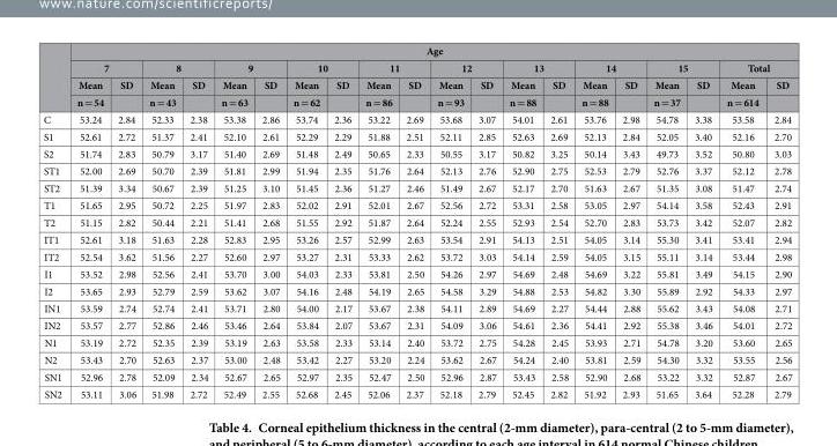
<table><thead><tr><td rowspan="4"></td><td colspan="20">Age</td></tr><tr><td colspan="2">7</td><td colspan="2">8</td><td colspan="2">9</td><td colspan="2">10</td><td colspan="2">11</td><td colspan="2">12</td><td colspan="2">13</td><td colspan="2">14</td><td colspan="2">15</td><td colspan="2">Total</td></tr><tr><td rowspan="2">Mean n = 54</td><td rowspan="2">SD</td><td rowspan="2">Mean n = 43</td><td rowspan="2">SD</td><td rowspan="2">Mean n = 63</td><td rowspan="2">SD</td><td rowspan="2">Mean n = 62</td><td rowspan="2">SD</td><td rowspan="2">Mean n = 86</td><td rowspan="2">SD</td><td rowspan="2">Mean n = 93</td><td rowspan="2">SD</td><td rowspan="2">Mean n = 88</td><td rowspan="2">SD</td><td rowspan="2">Mean n = 88</td><td rowspan="2">SD</td><td rowspan="2">Mean n = 37</td><td rowspan="2">SD</td><td rowspan="2">Mean n = 614</td><td rowspan="2">SD</td></tr><tr></tr></thead><tbody><tr><td>C</td><td>53.24</td><td>2.84</td><td>52.33</td><td>2.38</td><td>53.38</td><td>2.86</td><td>53.74</td><td>2.36</td><td>53.22</td><td>2.69</td><td>53.68</td><td>3.07</td><td>54.01</td><td>2.61</td><td>53.76</td><td>2.98</td><td>54.78</td><td>3.38</td><td>53.58</td><td>2.84</td></tr><tr><td>S1</td><td>52.61</td><td>2.72</td><td>51.37</td><td>2.41</td><td>52.10</td><td>2.61</td><td>52.29</td><td>2.29</td><td>51.88</td><td>2.51</td><td>52.11</td><td>2.85</td><td>52.63</td><td>2.69</td><td>52.13</td><td>2.84</td><td>52.05</td><td>3.40</td><td>52.16</td><td>2.70</td></tr><tr><td>S2</td><td>51.74</td><td>2.83</td><td>50.79</td><td>3.17</td><td>51.40</td><td>2.69</td><td>51.48</td><td>2.49</td><td>50.65</td><td>2.33</td><td>50.55</td><td>3.17</td><td>50.82</td><td>3.25</td><td>50.14</td><td>3.43</td><td>49.73</td><td>3.52</td><td>50.80</td><td>3.03</td></tr><tr><td>ST1</td><td>52.00</td><td>2.69</td><td>50.70</td><td>2.39</td><td>51.81</td><td>2.99</td><td>51.94</td><td>2.35</td><td>51.76</td><td>2.64</td><td>52.13</td><td>2.76</td><td>52.90</td><td>2.75</td><td>52.53</td><td>2.79</td><td>52.76</td><td>3.37</td><td>52.12</td><td>2.78</td></tr><tr><td>ST2</td><td>51.39</td><td>3.34</td><td>50.67</td><td>2.39</td><td>51.25</td><td>3.10</td><td>51.45</td><td>2.36</td><td>51.27</td><td>2.46</td><td>51.49</td><td>2.67</td><td>52.17</td><td>2.70</td><td>51.63</td><td>2.67</td><td>51.35</td><td>3.08</td><td>51.47</td><td>2.74</td></tr><tr><td>T1</td><td>51.65</td><td>2.95</td><td>50.72</td><td>2.25</td><td>51.97</td><td>2.83</td><td>52.02</td><td>2.91</td><td>52.01</td><td>2.67</td><td>52.56</td><td>2.72</td><td>53.31</td><td>2.58</td><td>53.05</td><td>2.97</td><td>54.14</td><td>3.58</td><td>52.43</td><td>2.91</td></tr><tr><td>T2</td><td>51.15</td><td>2.82</td><td>50.44</td><td>2.21</td><td>51.41</td><td>2.68</td><td>51.55</td><td>2.92</td><td>51.87</td><td>2.64</td><td>52.24</td><td>2.55</td><td>52.93</td><td>2.54</td><td>52.70</td><td>2.83</td><td>53.73</td><td>3.42</td><td>52.07</td><td>2.82</td></tr><tr><td>IT1</td><td>52.61</td><td>3.18</td><td>51.63</td><td>2.28</td><td>52.83</td><td>2.95</td><td>53.26</td><td>2.57</td><td>52.99</td><td>2.63</td><td>53.54</td><td>2.91</td><td>54.13</td><td>2.51</td><td>54.05</td><td>3.14</td><td>55.30</td><td>3.41</td><td>53.41</td><td>2.94</td></tr><tr><td>IT2</td><td>52.54</td><td>3.62</td><td>51.56</td><td>2.27</td><td>52.60</td><td>2.97</td><td>53.27</td><td>2.31</td><td>53.33</td><td>2.62</td><td>53.72</td><td>3.03</td><td>54.14</td><td>2.59</td><td>54.05</td><td>3.15</td><td>55.11</td><td>3.14</td><td>53.44</td><td>2.98</td></tr><tr><td>I1</td><td>53.52</td><td>2.98</td><td>52.56</td><td>2.41</td><td>53.70</td><td>3.00</td><td>54.03</td><td>2.33</td><td>53.81</td><td>2.50</td><td>54.26</td><td>2.97</td><td>54.69</td><td>2.48</td><td>54.69</td><td>3.22</td><td>55.81</td><td>3.49</td><td>54.15</td><td>2.90</td></tr><tr><td>I2</td><td>53.65</td><td>2.93</td><td>52.79</td><td>2.59</td><td>53.62</td><td>3.07</td><td>54.16</td><td>2.48</td><td>54.19</td><td>2.65</td><td>54.58</td><td>3.29</td><td>54.88</td><td>2.53</td><td>54.82</td><td>3.30</td><td>55.89</td><td>2.92</td><td>54.33</td><td>2.97</td></tr><tr><td>IN1</td><td>53.59</td><td>2.74</td><td>52.74</td><td>2.41</td><td>53.71</td><td>2.80</td><td>54.00</td><td>2.17</td><td>53.67</td><td>2.38</td><td>54.11</td><td>2.89</td><td>54.69</td><td>2.27</td><td>54.44</td><td>2.88</td><td>55.62</td><td>3.43</td><td>54.08</td><td>2.71</td></tr><tr><td>IN2</td><td>53.57</td><td>2.77</td><td>52.86</td><td>2.46</td><td>53.46</td><td>2.64</td><td>53.84</td><td>2.07</td><td>53.67</td><td>2.31</td><td>54.09</td><td>3.06</td><td>54.61</td><td>2.36</td><td>54.41</td><td>2.92</td><td>55.38</td><td>3.46</td><td>54.01</td><td>2.72</td></tr><tr><td>N1</td><td>53.19</td><td>2.72</td><td>52.35</td><td>2.39</td><td>53.19</td><td>2.63</td><td>53.58</td><td>2.33</td><td>53.14</td><td>2.40</td><td>53.72</td><td>2.75</td><td>54.28</td><td>2.45</td><td>53.93</td><td>2.71</td><td>54.78</td><td>3.20</td><td>53.60</td><td>2.65</td></tr><tr><td>N2</td><td>53.43</td><td>2.70</td><td>52.63</td><td>2.37</td><td>53.00</td><td>2.48</td><td>53.42</td><td>2.27</td><td>53.20</td><td>2.24</td><td>53.62</td><td>2.67</td><td>54.24</td><td>2.40</td><td>53.81</td><td>2.59</td><td>54.30</td><td>3.32</td><td>53.55</td><td>2.56</td></tr><tr><td>SN1</td><td>52.96</td><td>2.78</td><td>52.09</td><td>2.34</td><td>52.67</td><td>2.65</td><td>52.97</td><td>2.35</td><td>52.47</td><td>2.50</td><td>52.96</td><td>2.87</td><td>53.43</td><td>2.58</td><td>52.90</td><td>2.68</td><td>53.22</td><td>3.32</td><td>52.87</td><td>2.67</td></tr><tr><td>SN2</td><td>53.11</td><td>3.06</td><td>51.98</td><td>2.72</td><td>52.49</td><td>2.55</td><td>52.68</td><td>2.45</td><td>52.06</td><td>2.37</td><td>52.18</td><td>2.79</td><td>52.45</td><td>2.82</td><td>51.92</td><td>2.93</td><td>51.65</td><td>3.64</td><td>52.28</td><td>2.79</td></tr></tbody></table>